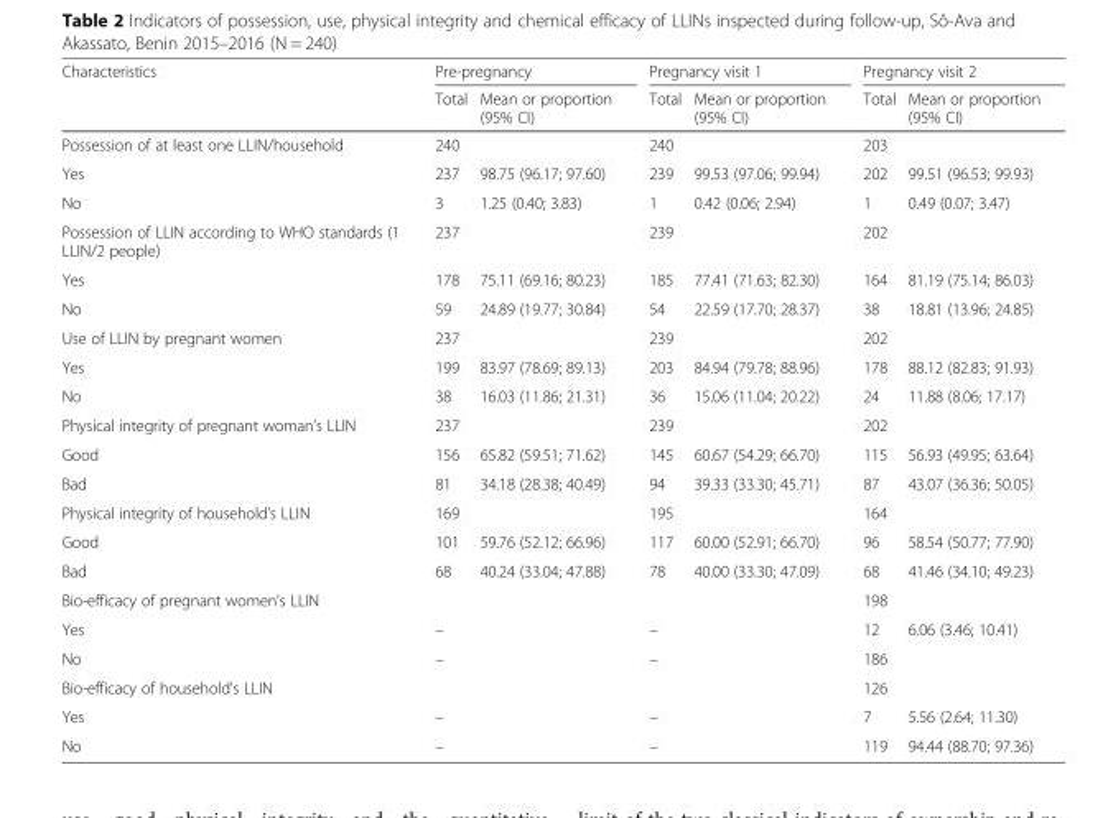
<table><thead><tr><td rowspan="2">Characteristics</td><td colspan="2">Pre-pregnancy</td><td colspan="2">Pregnancy visit 1</td><td colspan="2">Pregnancy visit 2</td></tr><tr><td>Total</td><td>Mean or proportion (95% CI)</td><td>Total</td><td>Mean or proportion (95% CI)</td><td>Total</td><td>Mean or proportion (95% CI)</td></tr></thead><tbody><tr><td>Possession of at least one LLIN/household</td><td>240</td><td></td><td>240</td><td></td><td>203</td><td></td></tr><tr><td>Yes</td><td>237</td><td>98.75 (96.17; 97.60)</td><td>239</td><td>99.53 (97.06; 99.94)</td><td>202</td><td>99.51 (96.53; 99.93)</td></tr><tr><td>No</td><td>3</td><td>1.25 (0.40; 3.83)</td><td>1</td><td>0.42 (0.06; 2.94)</td><td>1</td><td>0.49 (0.07; 3.47)</td></tr><tr><td>Possession of LLIN according to WHO standards (1 LLIN/2 people)</td><td>237</td><td></td><td>239</td><td></td><td>202</td><td></td></tr><tr><td>Yes</td><td>178</td><td>75.11 (69.16; 80.23)</td><td>185</td><td>77.41 (71.63; 82.30)</td><td>164</td><td>81.19 (75.14; 86.03)</td></tr><tr><td>No</td><td>59</td><td>24.89 (19.77; 30.84)</td><td>54</td><td>22.59 (17.70; 28.37)</td><td>38</td><td>18.81 (13.96; 24.85)</td></tr><tr><td>Use of LLIN by pregnant women</td><td>237</td><td></td><td>239</td><td></td><td>202</td><td></td></tr><tr><td>Yes</td><td>199</td><td>83.97 (78.69; 89.13)</td><td>203</td><td>84.94 (79.78; 88.96)</td><td>178</td><td>88.12 (82.83; 91.93)</td></tr><tr><td>No</td><td>38</td><td>16.03 (11.86; 21.31)</td><td>36</td><td>15.06 (11.04; 20.22)</td><td>24</td><td>11.88 (8.06; 17.17)</td></tr><tr><td>Physical integrity of pregnant woman’s LLIN</td><td>237</td><td></td><td>239</td><td></td><td>202</td><td></td></tr><tr><td>Good</td><td>156</td><td>65.82 (59.51; 71.62)</td><td>145</td><td>60.67 (54.29; 66.70)</td><td>115</td><td>56.93 (49.95; 63.64)</td></tr><tr><td>Bad</td><td>81</td><td>34.18 (28.38; 40.49)</td><td>94</td><td>39.33 (33.30; 45.71)</td><td>87</td><td>43.07 (36.36; 50.05)</td></tr><tr><td>Physical integrity of household’s LLIN</td><td>169</td><td></td><td>195</td><td></td><td>164</td><td></td></tr><tr><td>Good</td><td>101</td><td>59.76 (52.12; 66.96)</td><td>117</td><td>60.00 (52.91; 66.70)</td><td>96</td><td>58.54 (50.77; 77.90)</td></tr><tr><td>Bad</td><td>68</td><td>40.24 (33.04; 47.88)</td><td>78</td><td>40.00 (33.30; 47.09)</td><td>68</td><td>41.46 (34.10; 49.23)</td></tr><tr><td>Bio-efficacy of pregnant women’s LLIN</td><td></td><td></td><td></td><td></td><td>198</td><td></td></tr><tr><td>Yes</td><td>–</td><td></td><td>–</td><td></td><td>12</td><td>6.06 (3.46; 10.41)</td></tr><tr><td>No</td><td>–</td><td></td><td>–</td><td></td><td>186</td><td></td></tr><tr><td>Bio-efficacy of household’s LLIN</td><td></td><td></td><td></td><td></td><td>126</td><td></td></tr><tr><td>Yes</td><td>–</td><td></td><td>–</td><td></td><td>7</td><td>5.56 (2.64; 11.30)</td></tr><tr><td>No</td><td>–</td><td></td><td>–</td><td></td><td>119</td><td>94.44 (88.70; 97.36)</td></tr></tbody></table>